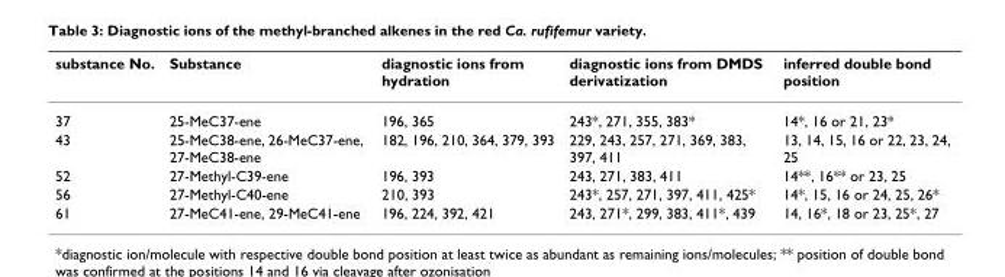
<table><thead><tr><td>substance No.</td><td>Substance</td><td>diagnostic ions from hydration</td><td>diagnostic ions from DMDS derivatization</td><td>inferred double bond position</td></tr></thead><tbody><tr><td>37</td><td>25-MeC37-ene</td><td>196, 365</td><td>243*, 271, 355, 383*</td><td>14*, 16 or 21, 23*</td></tr><tr><td>43</td><td>25-MeC38-ene, 26-MeC37-ene, 27-MeC38-ene</td><td>182, 196, 210, 364, 379, 393</td><td>229, 243, 257, 271, 369, 383, 397, 411</td><td>13, 14, 15, 16 or 22, 23, 24, 25</td></tr><tr><td>52</td><td>27-Methyl-C39-ene</td><td>196, 393</td><td>243, 271, 383, 411</td><td>14**, 16** or 23, 25</td></tr><tr><td>56</td><td>27-Methyl-C40-ene</td><td>210, 393</td><td>243*, 257, 271, 397, 411, 425*</td><td>14*, 15, 16 or 24, 25, 26*</td></tr><tr><td>61</td><td>27-MeC41-ene, 29-MeC41-ene</td><td>196, 224, 392, 421</td><td>243, 271*, 299, 383, 411*, 439</td><td>14, 16*, 18 or 23, 25*, 27</td></tr></tbody></table>